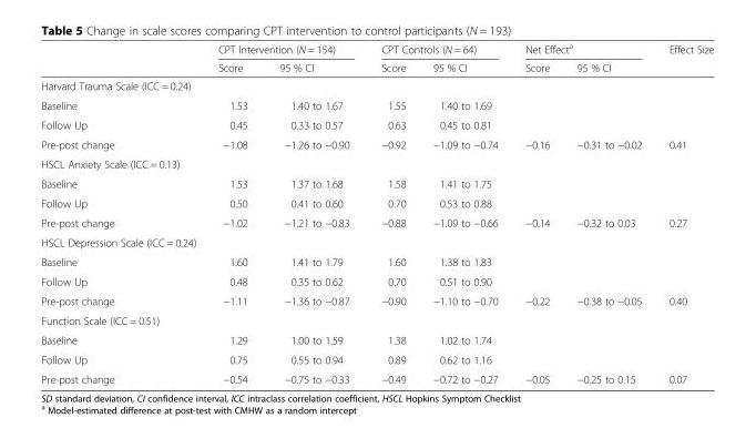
<table><thead><tr><td rowspan="2"></td><td colspan="2">CPT Intervention (N = 154)</td><td colspan="2">CPT Controls (N = 64)</td><td colspan="2">Net Effect<sup>a</sup></td><td rowspan="2">Effect Size</td></tr><tr><td>Score</td><td>95 % CI</td><td>Score</td><td>95 % CI</td><td>Score</td><td>95 % CI</td></tr></thead><tbody><tr><td colspan="8">Harvard Trauma Scale (ICC = 0.24)</td></tr><tr><td>Baseline</td><td>1.53</td><td>1.40 to 1.67</td><td>1.55</td><td>1.40 to 1.69</td><td></td><td></td><td></td></tr><tr><td>Follow Up</td><td>0.45</td><td>0.33 to 0.57</td><td>0.63</td><td>0.45 to 0.81</td><td></td><td></td><td></td></tr><tr><td>Pre-post change</td><td>−1.08</td><td>−1.26 to −0.90</td><td>−0.92</td><td>−1.09 to −0.74</td><td>−0.16</td><td>−0.31 to −0.02</td><td>0.41</td></tr><tr><td colspan="8">HSCL Anxiety Scale (ICC = 0.13)</td></tr><tr><td>Baseline</td><td>1.53</td><td>1.37 to 1.68</td><td>1.58</td><td>1.41 to 1.75</td><td></td><td></td><td></td></tr><tr><td>Follow Up</td><td>0.50</td><td>0.41 to 0.60</td><td>0.70</td><td>0.53 to 0.88</td><td></td><td></td><td></td></tr><tr><td>Pre-post change</td><td>−1.02</td><td>−1.21 to −0.83</td><td>−0.88</td><td>−1.09 to −0.66</td><td>−0.14</td><td>−0.32 to 0.03</td><td>0.27</td></tr><tr><td colspan="8">HSCL Depression Scale (ICC = 0.24)</td></tr><tr><td>Baseline</td><td>1.60</td><td>1.41 to 1.79</td><td>1.60</td><td>1.38 to 1.83</td><td></td><td></td><td></td></tr><tr><td>Follow Up</td><td>0.48</td><td>0.35 to 0.62</td><td>0.70</td><td>0.51 to 0.90</td><td></td><td></td><td></td></tr><tr><td>Pre-post change</td><td>−1.11</td><td>−1.36 to −0.87</td><td>−0.90</td><td>−1.10 to −0.70</td><td>−0.22</td><td>−0.38 to −0.05</td><td>0.40</td></tr><tr><td colspan="8">Function Scale (ICC = 0.51)</td></tr><tr><td>Baseline</td><td>1.29</td><td>1.00 to 1.59</td><td>1.38</td><td>1.02 to 1.74</td><td></td><td></td><td></td></tr><tr><td>Follow Up</td><td>0.75</td><td>0.55 to 0.94</td><td>0.89</td><td>0.62 to 1.16</td><td></td><td></td><td></td></tr><tr><td>Pre-post change</td><td>−0.54</td><td>−0.75 to −0.33</td><td>−0.49</td><td>−0.72 to −0.27</td><td>−0.05</td><td>−0.25 to 0.15</td><td>0.07</td></tr></tbody></table>